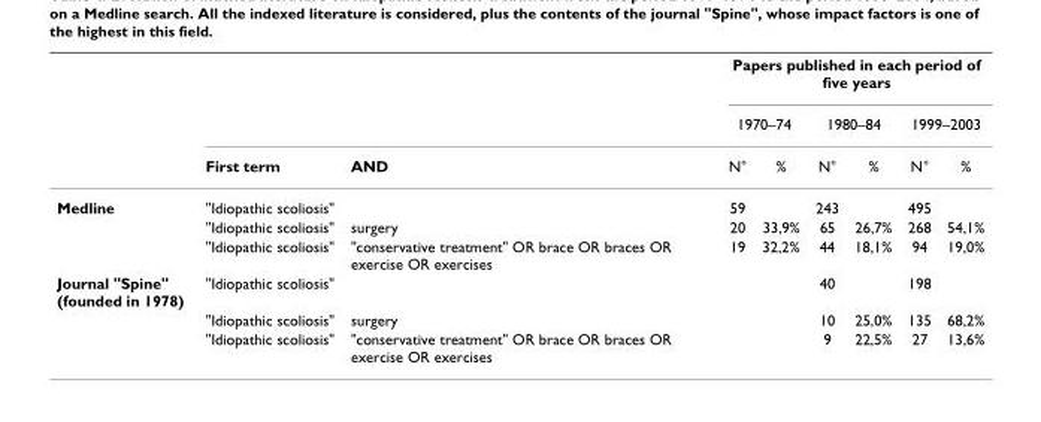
<table><thead><tr><td rowspan="3"></td><td rowspan="3">First term</td><td rowspan="3">AND</td><td colspan="6">Papers published in each period of five years</td></tr><tr><td colspan="2">1970–74</td><td colspan="2">1980–84</td><td colspan="2">1999–2003</td></tr><tr><td>N°</td><td>%</td><td>N°</td><td>%</td><td>N°</td><td>%</td></tr></thead><tbody><tr><td rowspan="3">Medline</td><td>&quot;Idiopathic scoliosis&quot;</td><td></td><td>59</td><td></td><td>243</td><td></td><td>495</td><td></td></tr><tr><td>&quot;Idiopathic scoliosis&quot;</td><td>surgery</td><td>20</td><td>33,9%</td><td>65</td><td>26,7%</td><td>268</td><td>54,1%</td></tr><tr><td>&quot;Idiopathic scoliosis&quot;</td><td>&quot;conservative treatment&quot; OR brace OR braces OR exercise OR exercises</td><td>19</td><td>32,2%</td><td>44</td><td>18,1%</td><td>94</td><td>19,0%</td></tr><tr><td rowspan="3">Journal &quot;Spine&quot; (founded in 1978)</td><td>&quot;Idiopathic scoliosis&quot;</td><td></td><td></td><td></td><td>40</td><td></td><td>198</td><td></td></tr><tr><td>&quot;Idiopathic scoliosis&quot;</td><td>surgery</td><td></td><td></td><td>10</td><td>25,0%</td><td>135</td><td>68,2%</td></tr><tr><td>&quot;Idiopathic scoliosis&quot;</td><td>&quot;conservative treatment&quot; OR brace OR braces OR exercise OR exercises</td><td></td><td></td><td>9</td><td>22,5%</td><td>27</td><td>13,6%</td></tr></tbody></table>